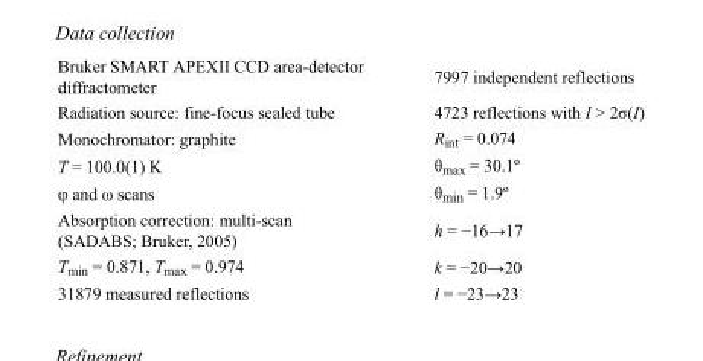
<table><tbody><tr><td>Bruker SMART APEXII CCD area-detector diffractometer</td><td>7997 independent reflections</td></tr><tr><td>Radiation source: fine-focus sealed tube</td><td>4723 reflections with I &gt; 2σ(I)</td></tr><tr><td>Monochromator: graphite</td><td>R<sub>int</sub> = 0.074</td></tr><tr><td>T = 100.0(1) K</td><td>θ<sub>max</sub> = 30.1º</td></tr><tr><td>φ and ω scans</td><td>θ<sub>min</sub> = 1.9º</td></tr><tr><td>Absorption correction: multi-scan (SADABS; Bruker, 2005)</td><td>h = −16→17</td></tr><tr><td>T<sub>min</sub> = 0.871, T<sub>max</sub> = 0.974</td><td>k = −20→20</td></tr><tr><td>31879 measured reflections</td><td>l = −23→23</td></tr></tbody></table>